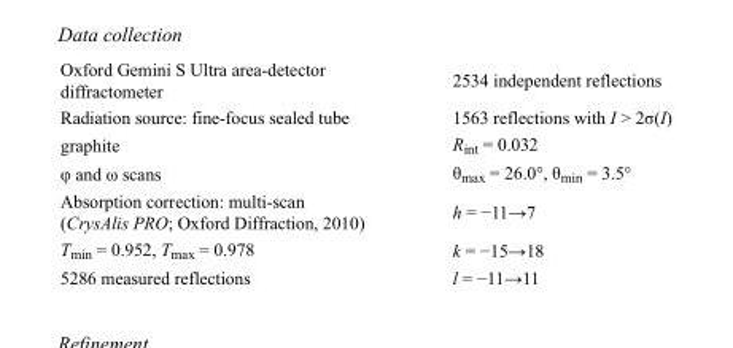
<table><tbody><tr><td>Oxford Gemini S Ultra area-detector diffractometer</td><td>2534 independent reflections</td></tr><tr><td>Radiation source: fine-focus sealed tube</td><td>1563 reflections with I &gt; 2σ(I)</td></tr><tr><td>graphite</td><td>R<sub>int</sub> = 0.032</td></tr><tr><td>φ and ω scans</td><td>θ<sub>max</sub> = 26.0°, θ<sub>min</sub> = 3.5°</td></tr><tr><td>Absorption correction: multi-scan (CrysAlis PRO; Oxford Diffraction, 2010)</td><td>h = −11→7</td></tr><tr><td>T<sub>min</sub> = 0.952, T<sub>max</sub> = 0.978</td><td>k = −15→18</td></tr><tr><td>5286 measured reflections</td><td>l = −11→11</td></tr></tbody></table>